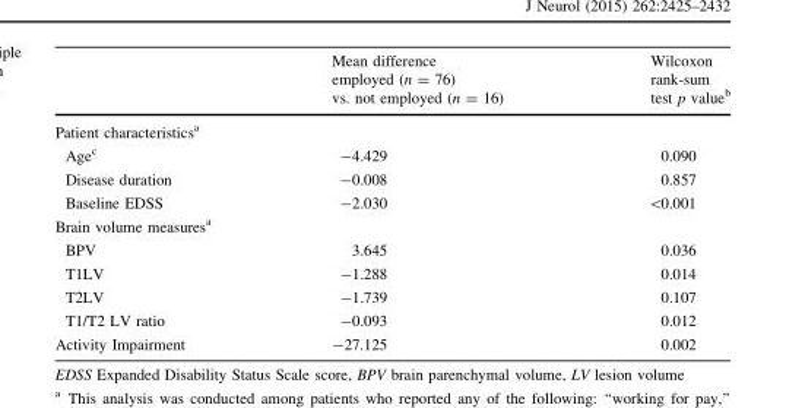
<table><thead><tr><td></td><td>Mean difference employed (n = 76) vs. not employed (n = 16)</td><td>Wilcoxon rank-sum test p value<sup>b</sup></td></tr></thead><tbody><tr><td colspan="3">Patient characteristics<sup>a</sup></td></tr><tr><td>Age<sup>c</sup></td><td>-4.429</td><td>0.090</td></tr><tr><td>Disease duration</td><td>-0.008</td><td>0.857</td></tr><tr><td>Baseline EDSS</td><td>-2.030</td><td>&lt;0.001</td></tr><tr><td colspan="3">Brain volume measures<sup>a</sup></td></tr><tr><td>BPV</td><td>3.645</td><td>0.036</td></tr><tr><td>T1LV</td><td>-1.288</td><td>0.014</td></tr><tr><td>T2LV</td><td>-1.739</td><td>0.107</td></tr><tr><td>T1/T2 LV ratio</td><td>-0.093</td><td>0.012</td></tr><tr><td>Activity Impairment</td><td>-27.125</td><td>0.002</td></tr></tbody></table>